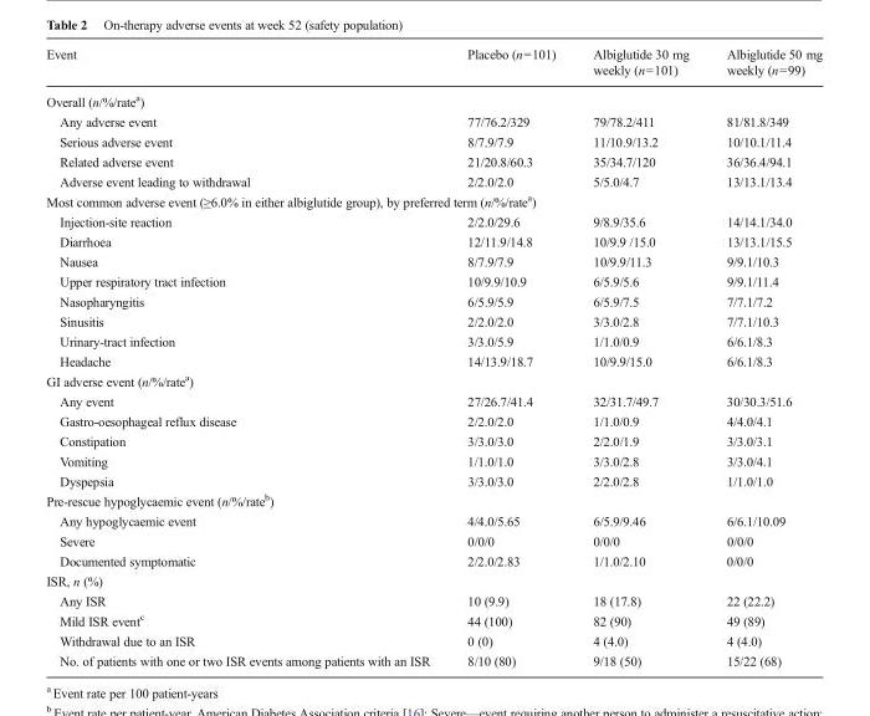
<table><thead><tr><td>Event</td><td>Placebo (n=101)</td><td>Albiglutide 30 mg weekly (n=101)</td><td>Albiglutide 50 mg weekly (n=99)</td></tr></thead><tbody><tr><td colspan="4">Overall (n/%/rate<sup>a</sup>)</td></tr><tr><td>Any adverse event</td><td>77/76.2/329</td><td>79/78.2/411</td><td>81/81.8/349</td></tr><tr><td>Serious adverse event</td><td>8/7.9/7.9</td><td>11/10.9/13.2</td><td>10/10.1/11.4</td></tr><tr><td>Related adverse event</td><td>21/20.8/60.3</td><td>35/34.7/120</td><td>36/36.4/94.1</td></tr><tr><td>Adverse event leading to withdrawal</td><td>2/2.0/2.0</td><td>5/5.0/4.7</td><td>13/13.1/13.4</td></tr><tr><td colspan="4">Most common adverse event (≥6.0% in either albiglutide group), by preferred term (n/%/rate<sup>a</sup>)</td></tr><tr><td>Injection-site reaction</td><td>2/2.0/29.6</td><td>9/8.9/35.6</td><td>14/14.1/34.0</td></tr><tr><td>Diarrhoea</td><td>12/11.9/14.8</td><td>10/9.9 /15.0</td><td>13/13.1/15.5</td></tr><tr><td>Nausea</td><td>8/7.9/7.9</td><td>10/9.9/11.3</td><td>9/9.1/10.3</td></tr><tr><td>Upper respiratory tract infection</td><td>10/9.9/10.9</td><td>6/5.9/5.6</td><td>9/9.1/11.4</td></tr><tr><td>Nasopharyngitis</td><td>6/5.9/5.9</td><td>6/5.9/7.5</td><td>7/7.1/7.2</td></tr><tr><td>Sinusitis</td><td>2/2.0/2.0</td><td>3/3.0/2.8</td><td>7/7.1/10.3</td></tr><tr><td>Urinary-tract infection</td><td>3/3.0/5.9</td><td>1/1.0/0.9</td><td>6/6.1/8.3</td></tr><tr><td>Headache</td><td>14/13.9/18.7</td><td>10/9.9/15.0</td><td>6/6.1/8.3</td></tr><tr><td colspan="4">GI adverse event (n/%/rate<sup>a</sup>)</td></tr><tr><td>Any event</td><td>27/26.7/41.4</td><td>32/31.7/49.7</td><td>30/30.3/51.6</td></tr><tr><td>Gastro-oesophageal reflux disease</td><td>2/2.0/2.0</td><td>1/1.0/0.9</td><td>4/4.0/4.1</td></tr><tr><td>Constipation</td><td>3/3.0/3.0</td><td>2/2.0/1.9</td><td>3/3.0/3.1</td></tr><tr><td>Vomiting</td><td>1/1.0/1.0</td><td>3/3.0/2.8</td><td>3/3.0/4.1</td></tr><tr><td>Dyspepsia</td><td>3/3.0/3.0</td><td>2/2.0/2.8</td><td>1/1.0/1.0</td></tr><tr><td colspan="4">Pre-rescue hypoglycaemic event (n/%/rate<sup>b</sup>)</td></tr><tr><td>Any hypoglycaemic event</td><td>4/4.0/5.65</td><td>6/5.9/9.46</td><td>6/6.1/10.09</td></tr><tr><td>Severe</td><td>0/0/0</td><td>0/0/0</td><td>0/0/0</td></tr><tr><td>Documented symptomatic</td><td>2/2.0/2.83</td><td>1/1.0/2.10</td><td>0/0/0</td></tr><tr><td colspan="4">ISR, n (%)</td></tr><tr><td>Any ISR</td><td>10 (9.9)</td><td>18 (17.8)</td><td>22 (22.2)</td></tr><tr><td>Mild ISR event<sup>c</sup></td><td>44 (100)</td><td>82 (90)</td><td>49 (89)</td></tr><tr><td>Withdrawal due to an ISR</td><td>0 (0)</td><td>4 (4.0)</td><td>4 (4.0)</td></tr><tr><td>No. of patients with one or two ISR events among patients with an ISR</td><td>8/10 (80)</td><td>9/18 (50)</td><td>15/22 (68)</td></tr></tbody></table>